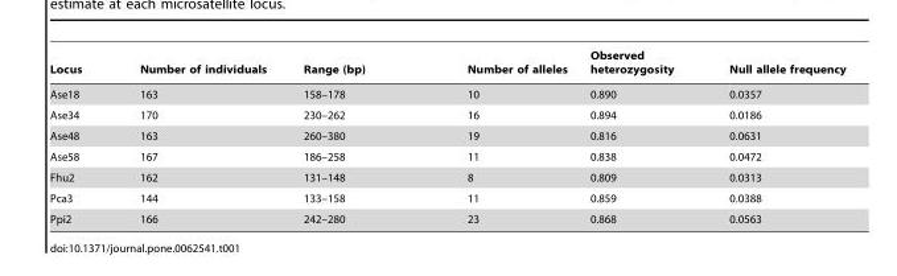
<table><thead><tr><td>Locus</td><td>Number of individuals</td><td>Range (bp)</td><td>Number of alleles</td><td>Observed heterozygosity</td><td>Null allele frequency</td></tr></thead><tbody><tr><td>Ase18</td><td>163</td><td>158–178</td><td>10</td><td>0.890</td><td>0.0357</td></tr><tr><td>Ase34</td><td>170</td><td>230–262</td><td>16</td><td>0.894</td><td>0.0186</td></tr><tr><td>Ase48</td><td>163</td><td>260–380</td><td>19</td><td>0.816</td><td>0.0631</td></tr><tr><td>Ase58</td><td>167</td><td>186–258</td><td>11</td><td>0.838</td><td>0.0472</td></tr><tr><td>Fhu2</td><td>162</td><td>131–148</td><td>8</td><td>0.809</td><td>0.0313</td></tr><tr><td>Pca3</td><td>144</td><td>133–158</td><td>11</td><td>0.859</td><td>0.0388</td></tr><tr><td>Ppi2</td><td>166</td><td>242–280</td><td>23</td><td>0.868</td><td>0.0563</td></tr></tbody></table>